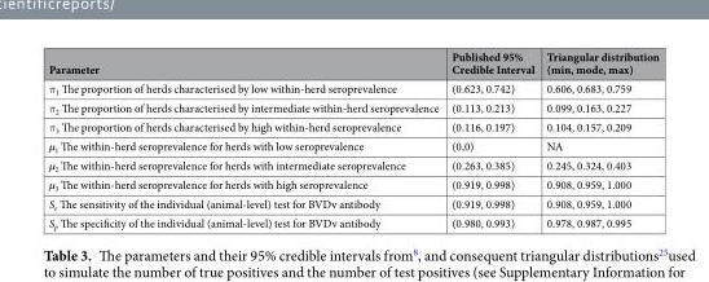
<table><thead><tr><td>Parameter</td><td>Published 95% Credible Interval</td><td>Triangular distribution (min, mode, max)</td></tr></thead><tbody><tr><td>π<sub>1</sub> The proportion of herds characterised by low within-herd seroprevalence</td><td>(0.623, 0.742)</td><td>0.606, 0.683, 0.759</td></tr><tr><td>π<sub>2</sub> The proportion of herds characterised by intermediate within-herd seroprevalence</td><td>(0.113, 0.213)</td><td>0.099, 0.163, 0.227</td></tr><tr><td>π<sub>3</sub> The proportion of herds characterised by high within-herd seroprevalence</td><td>(0.116, 0.197)</td><td>0.104, 0.157, 0.209</td></tr><tr><td>µ<sub>1</sub> The within-herd seroprevalence for herds with low seroprevalence</td><td>(0,0)</td><td>NA</td></tr><tr><td>µ<sub>2</sub> The within-herd seroprevalence for herds with intermediate seroprevalence</td><td>(0.263, 0.385)</td><td>0.245, 0.324, 0.403</td></tr><tr><td>µ<sub>3</sub> The within-herd seroprevalence for herds with high seroprevalence</td><td>(0.919, 0.998)</td><td>0.908, 0.959, 1.000</td></tr><tr><td>S<sub>e</sub> The sensitivity of the individual (animal-level) test for BVDv antibody</td><td>(0.919, 0.998)</td><td>0.908, 0.959, 1.000</td></tr><tr><td>S<sub>p</sub> The specificity of the individual (animal-level) test for BVDv antibody</td><td>(0.980, 0.993)</td><td>0.978, 0.987, 0.995</td></tr></tbody></table>